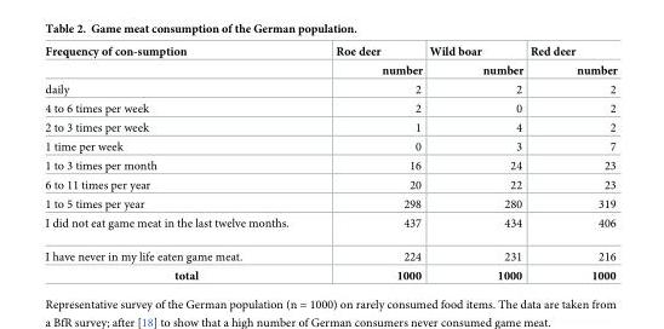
<table><thead><tr><td rowspan="2">Frequency of con-sumption</td><td rowspan="2">Roe deer number</td><td rowspan="2">Wild boar number</td><td rowspan="2">Red deer number</td></tr><tr></tr></thead><tbody><tr><td>daily</td><td>2</td><td>2</td><td>2</td></tr><tr><td>4 to 6 times per week</td><td>2</td><td>0</td><td>2</td></tr><tr><td>2 to 3 times per week</td><td>1</td><td>4</td><td>2</td></tr><tr><td>1 time per week</td><td>0</td><td>3</td><td>7</td></tr><tr><td>1 to 3 times per month</td><td>16</td><td>24</td><td>23</td></tr><tr><td>6 to 11 times per year</td><td>20</td><td>22</td><td>23</td></tr><tr><td>1 to 5 times per year</td><td>298</td><td>280</td><td>319</td></tr><tr><td>I did not eat game meat in the last twelve months.</td><td>437</td><td>434</td><td>406</td></tr><tr><td>I have never in my life eaten game meat.</td><td>224</td><td>231</td><td>216</td></tr><tr><td>total</td><td>1000</td><td>1000</td><td>1000</td></tr></tbody></table>